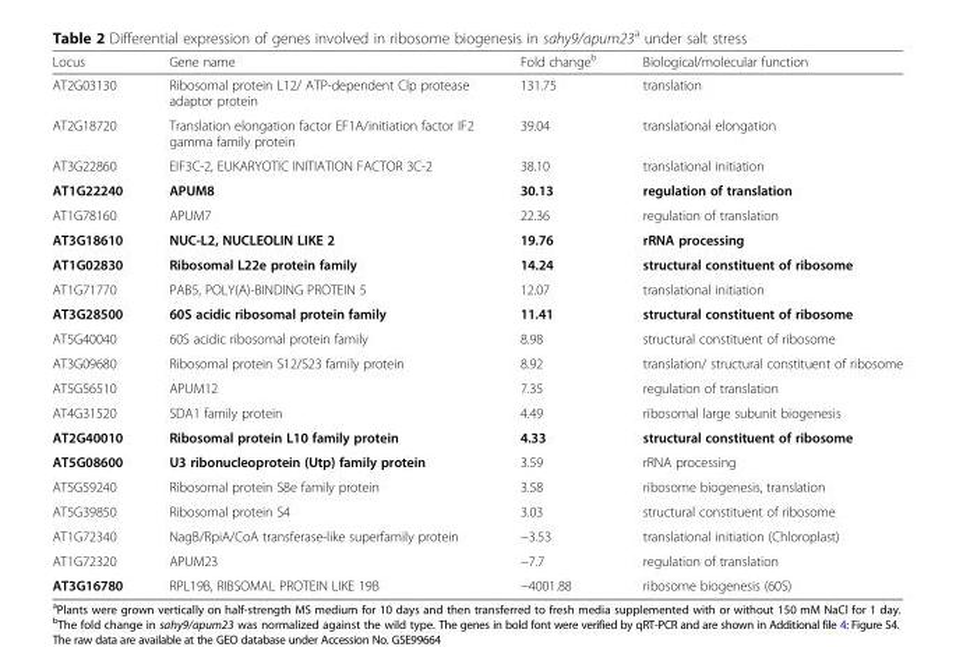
<table><thead><tr><td>Locus</td><td>Gene name</td><td>Fold change<sup>b</sup></td><td>Biological/molecular function</td></tr></thead><tbody><tr><td>AT2G03130</td><td>Ribosomal protein L12/ ATP-dependent Clp protease adaptor protein</td><td>131.75</td><td>translation</td></tr><tr><td>AT2G18720</td><td>Translation elongation factor EF1A/initiation factor IF2 gamma family protein</td><td>39.04</td><td>translational elongation</td></tr><tr><td>AT3G22860</td><td>EIF3C-2, EUKARYOTIC INITIATION FACTOR 3C-2</td><td>38.10</td><td>translational initiation</td></tr><tr><td>AT1G22240</td><td>APUM8</td><td>30.13</td><td>regulation of translation</td></tr><tr><td>AT1G78160</td><td>APUM7</td><td>22.36</td><td>regulation of translation</td></tr><tr><td>AT3G18610</td><td>NUC-L2, NUCLEOLIN LIKE 2</td><td>19.76</td><td>rRNA processing</td></tr><tr><td>AT1G02830</td><td>Ribosomal L22e protein family</td><td>14.24</td><td>structural constituent of ribosome</td></tr><tr><td>AT1G71770</td><td>PAB5, POLY(A)-BINDING PROTEIN 5</td><td>12.07</td><td>translational initiation</td></tr><tr><td>AT3G28500</td><td>60S acidic ribosomal protein family</td><td>11.41</td><td>structural constituent of ribosome</td></tr><tr><td>AT5G40040</td><td>60S acidic ribosomal protein family</td><td>8.98</td><td>structural constituent of ribosome</td></tr><tr><td>AT3G09680</td><td>Ribosomal protein S12/S23 family protein</td><td>8.92</td><td>translation/ structural constituent of ribosome</td></tr><tr><td>AT5G56510</td><td>APUM12</td><td>7.35</td><td>regulation of translation</td></tr><tr><td>AT4G31520</td><td>SDA1 family protein</td><td>4.49</td><td>ribosomal large subunit biogenesis</td></tr><tr><td>AT2G40010</td><td>Ribosomal protein L10 family protein</td><td>4.33</td><td>structural constituent of ribosome</td></tr><tr><td>AT5G08600</td><td>U3 ribonucleoprotein (Utp) family protein</td><td>3.59</td><td>rRNA processing</td></tr><tr><td>AT5G59240</td><td>Ribosomal protein S8e family protein</td><td>3.58</td><td>ribosome biogenesis, translation</td></tr><tr><td>AT5G39850</td><td>Ribosomal protein S4</td><td>3.03</td><td>structural constituent of ribosome</td></tr><tr><td>AT1G72340</td><td>NagB/RpiA/CoA transferase-like superfamily protein</td><td>−3.53</td><td>translational initiation (Chloroplast)</td></tr><tr><td>AT1G72320</td><td>APUM23</td><td>−7.7</td><td>regulation of translation</td></tr><tr><td>AT3G16780</td><td>RPL19B, RIBSOMAL PROTEIN LIKE 19B</td><td>−4001.88</td><td>ribosome biogenesis (60S)</td></tr></tbody></table>